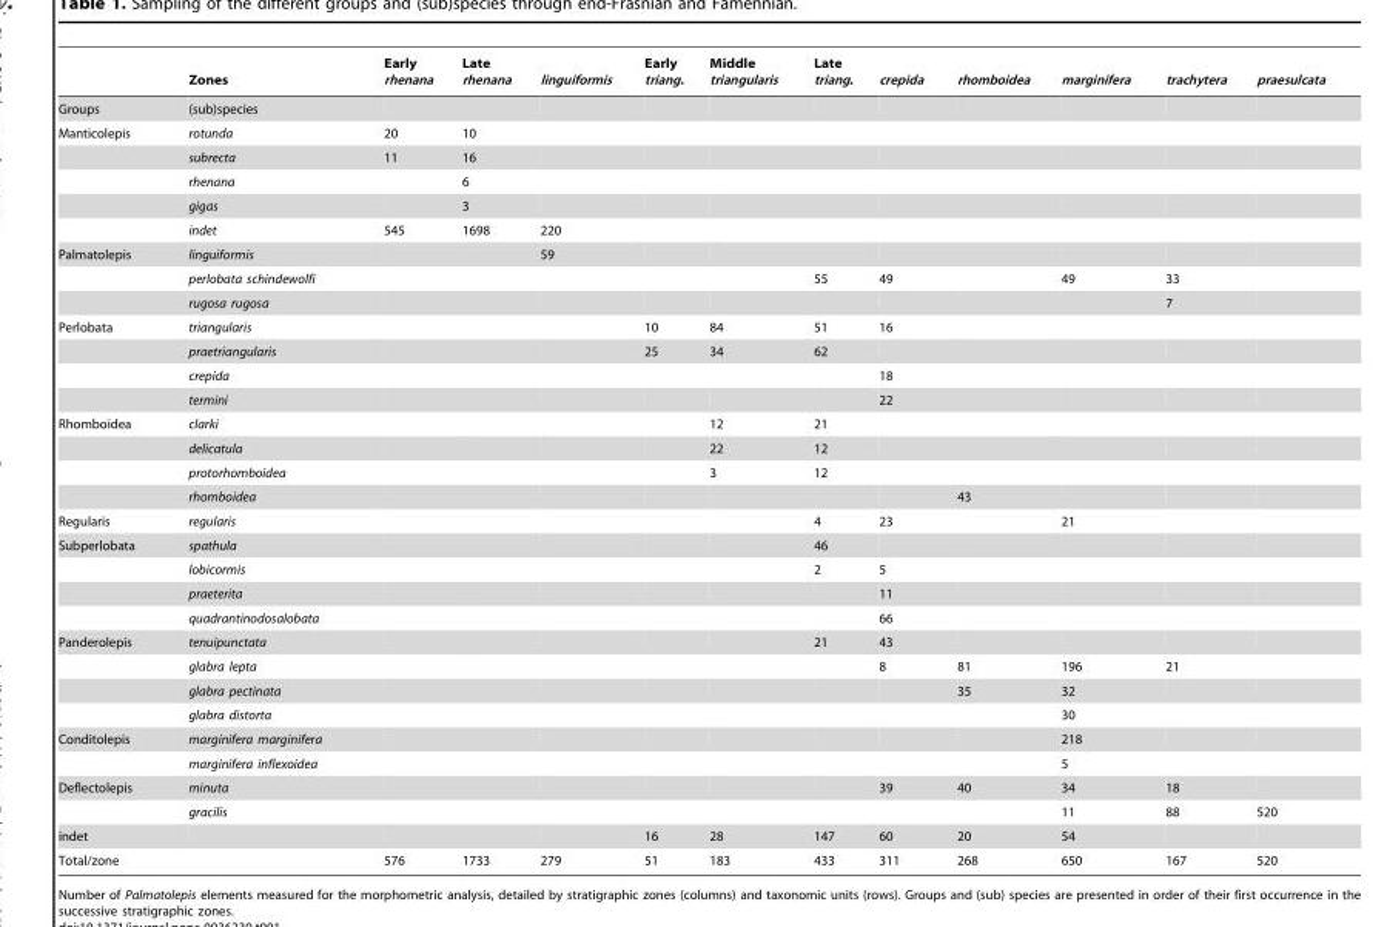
<table><thead><tr><td></td><td>Zones</td><td>Early rhenana</td><td>Late rhenana</td><td>linguiformis</td><td>Early triang.</td><td>Middle triangularis</td><td>Late triang.</td><td>crepida</td><td>rhomboidea</td><td>marginifera</td><td>trachytera</td><td>praesulcata</td></tr></thead><tbody><tr><td>Groups</td><td>(sub)species</td><td></td><td></td><td></td><td></td><td></td><td></td><td></td><td></td><td></td><td></td><td></td></tr><tr><td rowspan="5">Manticolepis</td><td>rotunda</td><td>20</td><td>10</td><td></td><td></td><td></td><td></td><td></td><td></td><td></td><td></td><td></td></tr><tr><td>subrecta</td><td>11</td><td>16</td><td></td><td></td><td></td><td></td><td></td><td></td><td></td><td></td><td></td></tr><tr><td>rhenana</td><td></td><td>6</td><td></td><td></td><td></td><td></td><td></td><td></td><td></td><td></td><td></td></tr><tr><td>gigas</td><td></td><td>3</td><td></td><td></td><td></td><td></td><td></td><td></td><td></td><td></td><td></td></tr><tr><td>indet</td><td>545</td><td>1698</td><td>220</td><td></td><td></td><td></td><td></td><td></td><td></td><td></td><td></td></tr><tr><td rowspan="3">Palmatolepis</td><td>linguiformis</td><td></td><td></td><td>59</td><td></td><td></td><td></td><td></td><td></td><td></td><td></td><td></td></tr><tr><td>perlobata schindewolfi</td><td></td><td></td><td></td><td></td><td></td><td>55</td><td>49</td><td></td><td>49</td><td>33</td><td></td></tr><tr><td>rugosa rugosa</td><td></td><td></td><td></td><td></td><td></td><td></td><td></td><td></td><td></td><td>7</td><td></td></tr><tr><td rowspan="4">Perlobata</td><td>triangularis</td><td></td><td></td><td></td><td>10</td><td>84</td><td>51</td><td>16</td><td></td><td></td><td></td><td></td></tr><tr><td>praetriangularis</td><td></td><td></td><td></td><td>25</td><td>34</td><td>62</td><td></td><td></td><td></td><td></td><td></td></tr><tr><td>crepida</td><td></td><td></td><td></td><td></td><td></td><td></td><td>18</td><td></td><td></td><td></td><td></td></tr><tr><td>termini</td><td></td><td></td><td></td><td></td><td></td><td></td><td>22</td><td></td><td></td><td></td><td></td></tr><tr><td rowspan="4">Rhomboidea</td><td>clarki</td><td></td><td></td><td></td><td></td><td>12</td><td>21</td><td></td><td></td><td></td><td></td><td></td></tr><tr><td>delicatula</td><td></td><td></td><td></td><td></td><td>22</td><td>12</td><td></td><td></td><td></td><td></td><td></td></tr><tr><td>protorhomboidea</td><td></td><td></td><td></td><td></td><td>3</td><td>12</td><td></td><td></td><td></td><td></td><td></td></tr><tr><td>rhomboidea</td><td></td><td></td><td></td><td></td><td></td><td></td><td></td><td>43</td><td></td><td></td><td></td></tr><tr><td>Regularis</td><td>regularis</td><td></td><td></td><td></td><td></td><td></td><td>4</td><td>23</td><td></td><td>21</td><td></td><td></td></tr><tr><td rowspan="4">Subperlobata</td><td>spathula</td><td></td><td></td><td></td><td></td><td></td><td>46</td><td></td><td></td><td></td><td></td><td></td></tr><tr><td>lobicormis</td><td></td><td></td><td></td><td></td><td></td><td>2</td><td>5</td><td></td><td></td><td></td><td></td></tr><tr><td>praeterita</td><td></td><td></td><td></td><td></td><td></td><td></td><td>11</td><td></td><td></td><td></td><td></td></tr><tr><td>quadrantinodosalobata</td><td></td><td></td><td></td><td></td><td></td><td></td><td>66</td><td></td><td></td><td></td><td></td></tr><tr><td rowspan="4">Panderolepis</td><td>tenuipunctata</td><td></td><td></td><td></td><td></td><td></td><td>21</td><td>43</td><td></td><td></td><td></td><td></td></tr><tr><td>glabra lepta</td><td></td><td></td><td></td><td></td><td></td><td></td><td>8</td><td>81</td><td>196</td><td>21</td><td></td></tr><tr><td>glabra pectinata</td><td></td><td></td><td></td><td></td><td></td><td></td><td></td><td>35</td><td>32</td><td></td><td></td></tr><tr><td>glabra distorta</td><td></td><td></td><td></td><td></td><td></td><td></td><td></td><td></td><td>30</td><td></td><td></td></tr><tr><td rowspan="2">Conditolepis</td><td>marginifera marginifera</td><td></td><td></td><td></td><td></td><td></td><td></td><td></td><td></td><td>218</td><td></td><td></td></tr><tr><td>marginifera inflexoidea</td><td></td><td></td><td></td><td></td><td></td><td></td><td></td><td></td><td>5</td><td></td><td></td></tr><tr><td rowspan="2">Deflectolepis</td><td>minuta</td><td></td><td></td><td></td><td></td><td></td><td></td><td>39</td><td>40</td><td>34</td><td>18</td><td></td></tr><tr><td>gracilis</td><td></td><td></td><td></td><td></td><td></td><td></td><td></td><td></td><td>11</td><td>88</td><td>520</td></tr><tr><td>indet</td><td></td><td></td><td></td><td></td><td>16</td><td>28</td><td>147</td><td>60</td><td>20</td><td>54</td><td></td><td></td></tr><tr><td>Total/zone</td><td></td><td>576</td><td>1733</td><td>279</td><td>51</td><td>183</td><td>433</td><td>311</td><td>268</td><td>650</td><td>167</td><td>520</td></tr></tbody></table>